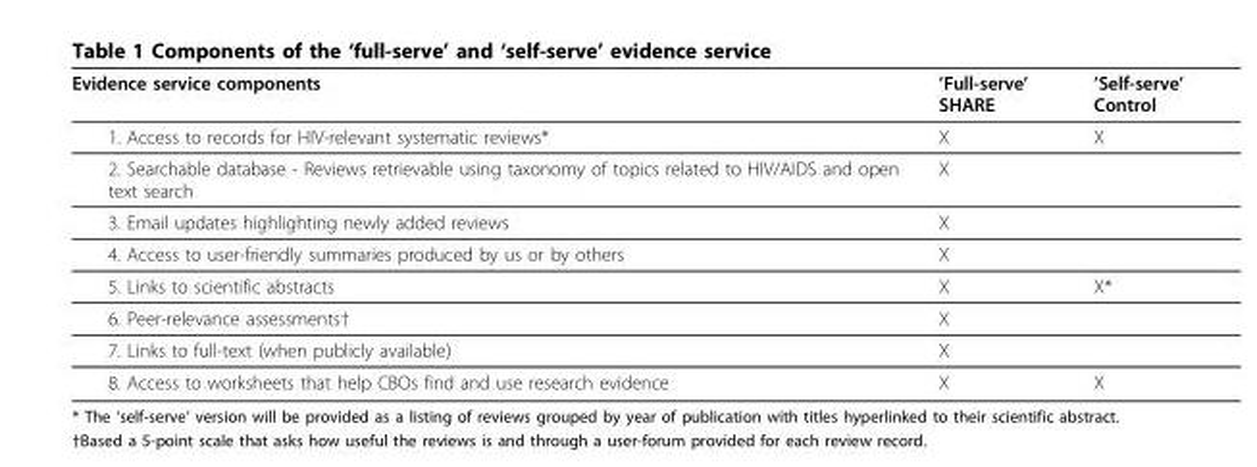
<table><thead><tr><td>Evidence service components</td><td>’Full-serve’ SHARE</td><td>’Self-serve’ Control</td></tr></thead><tbody><tr><td>1. Access to records for HIV-relevant systematic reviews*</td><td>X</td><td>X</td></tr><tr><td>2. Searchable database - Reviews retrievable using taxonomy of topics related to HIV/AIDS and open text search</td><td>X</td><td></td></tr><tr><td>3. Email updates highlighting newly added reviews</td><td>X</td><td></td></tr><tr><td>4. Access to user-friendly summaries produced by us or by others</td><td>X</td><td></td></tr><tr><td>5. Links to scientific abstracts</td><td>X</td><td>X*</td></tr><tr><td>6. Peer-relevance assessments†</td><td>X</td><td></td></tr><tr><td>7. Links to full-text (when publicly available)</td><td>X</td><td></td></tr><tr><td>8. Access to worksheets that help CBOs find and use research evidence</td><td>X</td><td>X</td></tr></tbody></table>